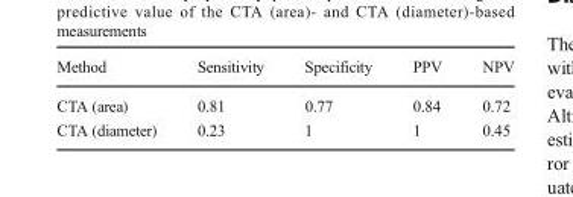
<table><thead><tr><td>Method</td><td>Sensitivity</td><td>Specificity</td><td>PPV</td><td>NPV</td></tr></thead><tbody><tr><td>CTA (area)</td><td>0.81</td><td>0.77</td><td>0.84</td><td>0.72</td></tr><tr><td>CTA (diameter)</td><td>0.23</td><td>1</td><td>1</td><td>0.45</td></tr></tbody></table>